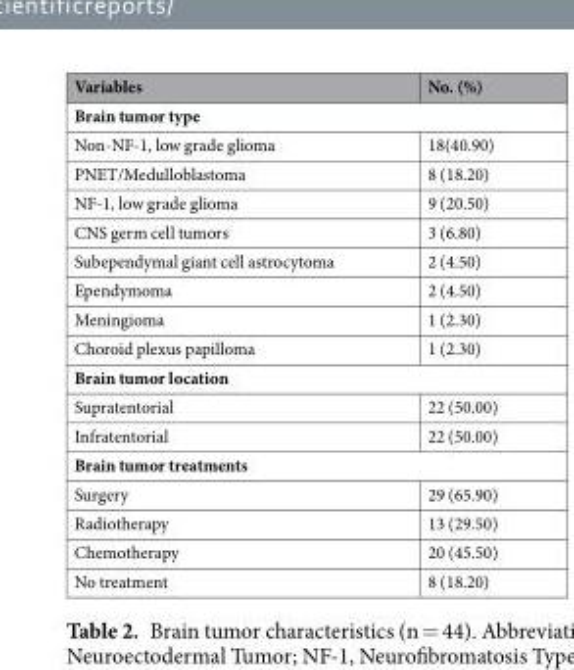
<table><thead><tr><td>Variables</td><td>No. (%)</td></tr></thead><tbody><tr><td colspan="2">Brain tumor type</td></tr><tr><td>Non-NF-1, low grade glioma</td><td>18(40.90)</td></tr><tr><td>PNET/Medulloblastoma</td><td>8 (18.20)</td></tr><tr><td>NF-1, low grade glioma</td><td>9 (20.50)</td></tr><tr><td>CNS germ cell tumors</td><td>3 (6.80)</td></tr><tr><td>Subependymal giant cell astrocytoma</td><td>2 (4.50)</td></tr><tr><td>Ependymoma</td><td>2 (4.50)</td></tr><tr><td>Meningioma</td><td>1 (2.30)</td></tr><tr><td>Choroid plexus papilloma</td><td>1 (2.30)</td></tr><tr><td colspan="2">Brain tumor location</td></tr><tr><td>Supratentorial</td><td>22 (50.00)</td></tr><tr><td>Infratentorial</td><td>22 (50.00)</td></tr><tr><td colspan="2">Brain tumor treatments</td></tr><tr><td>Surgery</td><td>29 (65.90)</td></tr><tr><td>Radiotherapy</td><td>13 (29.50)</td></tr><tr><td>Chemotherapy</td><td>20 (45.50)</td></tr><tr><td>No treatment</td><td>8 (18.20)</td></tr></tbody></table>